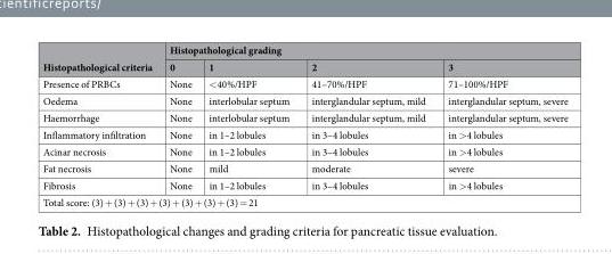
<table><thead><tr><td rowspan="2">Histopathological criteria</td><td colspan="4">Histopathological grading</td></tr><tr><td>0</td><td>1</td><td>2</td><td>3</td></tr></thead><tbody><tr><td>Presence of PRBCs</td><td>None</td><td>&lt;40%/HPF</td><td>41–70%/HPF</td><td>71–100%/HPF</td></tr><tr><td>Oedema</td><td>None</td><td>interlobular septum</td><td>interglandular septum, mild</td><td>interglandular septum, severe</td></tr><tr><td>Haemorrhage</td><td>None</td><td>interlobular septum</td><td>interglandular septum, mild</td><td>interglandular septum, severe</td></tr><tr><td>Inflammatory infiltration</td><td>None</td><td>in 1–2 lobules</td><td>in 3–4 lobules</td><td>in &gt;4 lobules</td></tr><tr><td>Acinar necrosis</td><td>None</td><td>in 1–2 lobules</td><td>in 3–4 lobules</td><td>in &gt;4 lobules</td></tr><tr><td>Fat necrosis</td><td>None</td><td>mild</td><td>moderate</td><td>severe</td></tr><tr><td>Fibrosis</td><td>None</td><td>in 1–2 lobules</td><td>in 3–4 lobules</td><td>in &gt;4 lobules</td></tr><tr><td colspan="5">Total score: (3) + (3) + (3) + (3) + (3) + (3) + (3) = 21</td></tr></tbody></table>